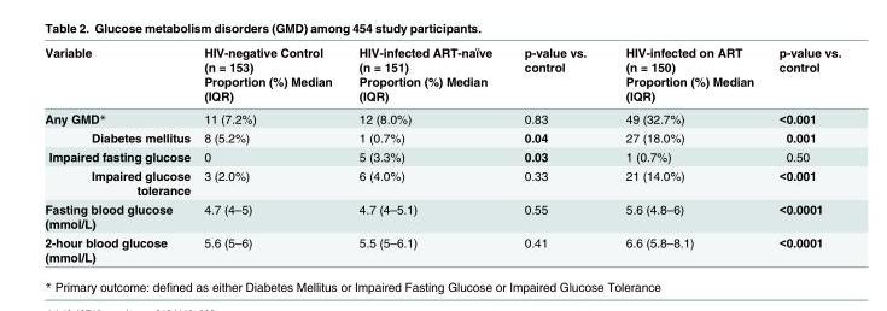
<table><thead><tr><td rowspan="2">Variable</td><td rowspan="2">HIV-negative Control (n = 153) Proportion (%) Median (IQR)</td><td rowspan="2">HIV-infected ART-naïve (n = 151) Proportion (%) Median (IQR)</td><td rowspan="2">p-value vs. control</td><td rowspan="2">HIV-infected on ART (n = 150) Proportion (%) Median (IQR)</td><td rowspan="2">p-value vs. control</td></tr><tr></tr></thead><tbody><tr><td>Any GMD*</td><td>11 (7.2%)</td><td>12 (8.0%)</td><td>0.83</td><td>49 (32.7%)</td><td>&lt;0.001</td></tr><tr><td>Diabetes mellitus</td><td>8 (5.2%)</td><td>1 (0.7%)</td><td>0.04</td><td>27 (18.0%)</td><td>0.001</td></tr><tr><td>Impaired fasting glucose</td><td>0</td><td>5 (3.3%)</td><td>0.03</td><td>1 (0.7%)</td><td>0.50</td></tr><tr><td>Impaired glucose tolerance</td><td>3 (2.0%)</td><td>6 (4.0%)</td><td>0.33</td><td>21 (14.0%)</td><td>&lt;0.001</td></tr><tr><td>Fasting blood glucose (mmol/L)</td><td>4.7 (4–5)</td><td>4.7 (4–5.1)</td><td>0.55</td><td>5.6 (4.8–6)</td><td>&lt;0.0001</td></tr><tr><td>2-hour blood glucose (mmol/L)</td><td>5.6 (5–6)</td><td>5.5 (5–6.1)</td><td>0.41</td><td>6.6 (5.8–8.1)</td><td>&lt;0.0001</td></tr></tbody></table>